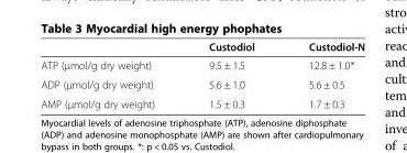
<table><thead><tr><td></td><td>Custodiol</td><td>Custodiol-N</td></tr></thead><tbody><tr><td>ATP (μmol/g dry weight)</td><td>9.5 ± 1.5</td><td>12.8 ± 1.0*</td></tr><tr><td>ADP (μmol/g dry weight)</td><td>5.6 ± 1.0</td><td>5.6 ± 0.5</td></tr><tr><td>AMP (μmol/g dry weight)</td><td>1.5 ± 0.3</td><td>1.7 ± 0.3</td></tr></tbody></table>